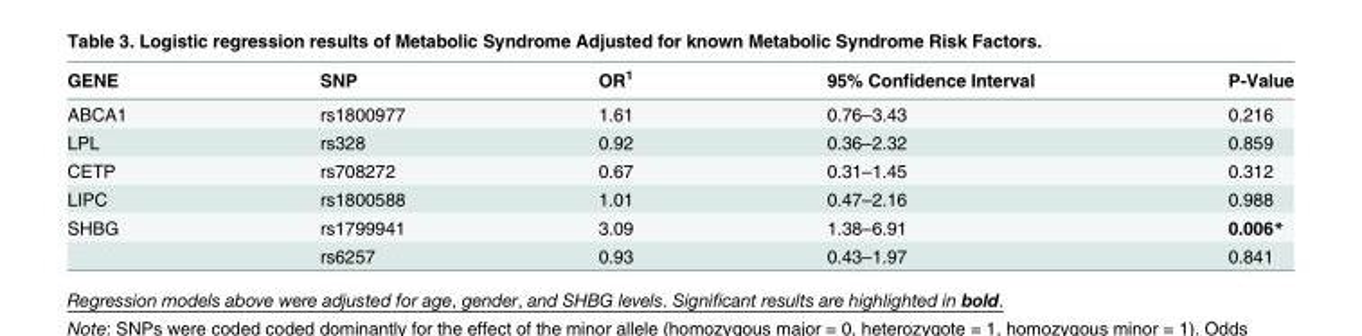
<table><thead><tr><td>GENE</td><td>SNP</td><td>OR<sup>1</sup></td><td>95% Confidence Interval</td><td>P-Value</td></tr></thead><tbody><tr><td>ABCA1</td><td>rs1800977</td><td>1.61</td><td>0.76–3.43</td><td>0.216</td></tr><tr><td>LPL</td><td>rs328</td><td>0.92</td><td>0.36–2.32</td><td>0.859</td></tr><tr><td>CETP</td><td>rs708272</td><td>0.67</td><td>0.31–1.45</td><td>0.312</td></tr><tr><td>LIPC</td><td>rs1800588</td><td>1.01</td><td>0.47–2.16</td><td>0.988</td></tr><tr><td rowspan="2">SHBG</td><td>rs1799941</td><td>3.09</td><td>1.38–6.91</td><td>0.006*</td></tr><tr><td>rs6257</td><td>0.93</td><td>0.43–1.97</td><td>0.841</td></tr></tbody></table>